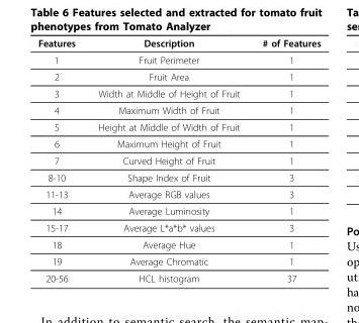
<table><thead><tr><td>Features</td><td>Description</td><td># of Features</td></tr></thead><tbody><tr><td>1</td><td>Fruit Perimeter</td><td>1</td></tr><tr><td>2</td><td>Fruit Area</td><td>1</td></tr><tr><td>3</td><td>Width at Middle of Height of Fruit</td><td>1</td></tr><tr><td>4</td><td>Maximum Width of Fruit</td><td>1</td></tr><tr><td>5</td><td>Height at Middle of Width of Fruit</td><td>1</td></tr><tr><td>6</td><td>Maximum Height of Fruit</td><td>1</td></tr><tr><td>7</td><td>Curved Height of Fruit</td><td>1</td></tr><tr><td>8-10</td><td>Shape Index of Fruit</td><td>3</td></tr><tr><td>11-13</td><td>Average RGB values</td><td>3</td></tr><tr><td>14</td><td>Average Luminosity</td><td>1</td></tr><tr><td>15-17</td><td>Average L*a*b* values</td><td>3</td></tr><tr><td>18</td><td>Average Hue</td><td>1</td></tr><tr><td>19</td><td>Average Chromatic</td><td>1</td></tr><tr><td>20-56</td><td>HCL histogram</td><td>37</td></tr></tbody></table>